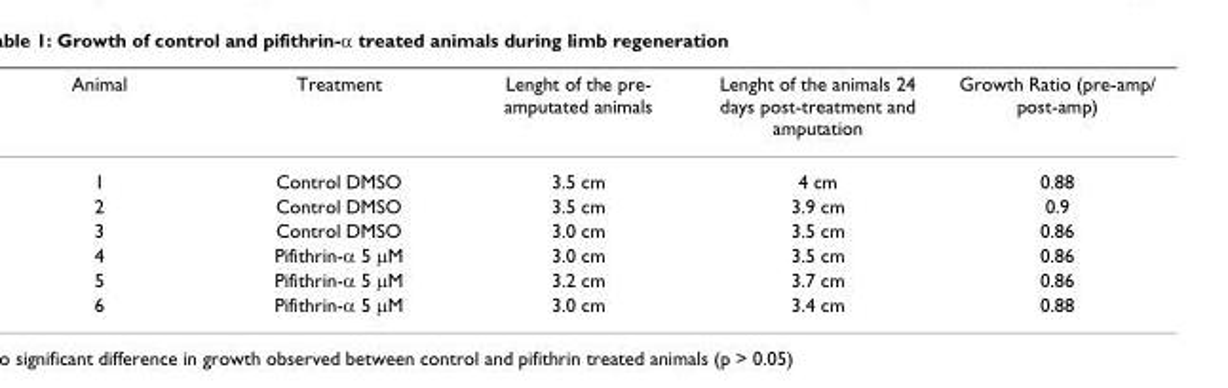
<table><thead><tr><td>Animal</td><td>Treatment</td><td>Lenght of the pre- amputated animals</td><td>Lenght of the animals 24 days post-treatment and amputation</td><td>Growth Ratio (pre-amp/ post-amp)</td></tr></thead><tbody><tr><td>1</td><td>Control DMSO</td><td>3.5 cm</td><td>4 cm</td><td>0.88</td></tr><tr><td>2</td><td>Control DMSO</td><td>3.5 cm</td><td>3.9 cm</td><td>0.9</td></tr><tr><td>3</td><td>Control DMSO</td><td>3.0 cm</td><td>3.5 cm</td><td>0.86</td></tr><tr><td>4</td><td>Pifithrin-α 5 μM</td><td>3.0 cm</td><td>3.5 cm</td><td>0.86</td></tr><tr><td>5</td><td>Pifithrin-α 5 μM</td><td>3.2 cm</td><td>3.7 cm</td><td>0.86</td></tr><tr><td>6</td><td>Pifithrin-α 5 μM</td><td>3.0 cm</td><td>3.4 cm</td><td>0.88</td></tr></tbody></table>